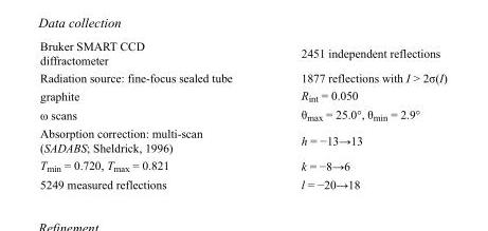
<table><tbody><tr><td>Bruker SMART CCD diffractometer</td><td>2451 independent reflections</td></tr><tr><td>Radiation source: fine-focus sealed tube</td><td>1877 reflections with I &gt; 2σ(I)</td></tr><tr><td>graphite</td><td>R<sub>int</sub> = 0.050</td></tr><tr><td>ω scans</td><td>θ<sub>max</sub> = 25.0°, θ<sub>min</sub> = 2.9°</td></tr><tr><td>Absorption correction: multi-scan (SADABS; Sheldrick, 1996)</td><td>h = −13→13</td></tr><tr><td>T<sub>min</sub> = 0.720, T<sub>max</sub> = 0.821</td><td>k = −8→6</td></tr><tr><td>5249 measured reflections</td><td>l = −20→18</td></tr></tbody></table>